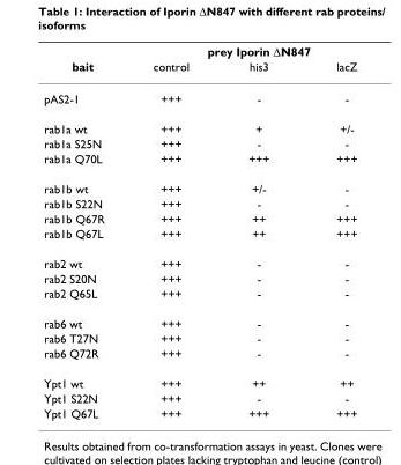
<table><thead><tr><td rowspan="2">bait</td><td colspan="3">prey Iporin ∆N847</td></tr><tr><td>control</td><td>his3</td><td>lacZ</td></tr></thead><tbody><tr><td>pAS2-1</td><td>+++</td><td>-</td><td>-</td></tr><tr><td>rab1a wt</td><td>+++</td><td>+</td><td>+/-</td></tr><tr><td>rab1a S25N</td><td>+++</td><td>-</td><td>-</td></tr><tr><td>rab1a Q70L</td><td>+++</td><td>+++</td><td>+++</td></tr><tr><td>rab1b wt</td><td>+++</td><td>+/-</td><td>-</td></tr><tr><td>rab1b S22N</td><td>+++</td><td>-</td><td>-</td></tr><tr><td>rab1b Q67R</td><td>+++</td><td>++</td><td>+++</td></tr><tr><td>rab1b Q67L</td><td>+++</td><td>++</td><td>+++</td></tr><tr><td>rab2 wt</td><td>+++</td><td>-</td><td>-</td></tr><tr><td>rab2 S20N</td><td>+++</td><td>-</td><td>-</td></tr><tr><td>rab2 Q65L</td><td>+++</td><td>-</td><td>-</td></tr><tr><td>rab6 wt</td><td>+++</td><td>-</td><td>-</td></tr><tr><td>rab6 T27N</td><td>+++</td><td>-</td><td>-</td></tr><tr><td>rab6 Q72R</td><td>+++</td><td>-</td><td>-</td></tr><tr><td>Ypt1 wt</td><td>+++</td><td>++</td><td>++</td></tr><tr><td>Ypt1 S22N</td><td>+++</td><td>-</td><td>-</td></tr><tr><td>Ypt1 Q67L</td><td>+++</td><td>+++</td><td>+++</td></tr></tbody></table>